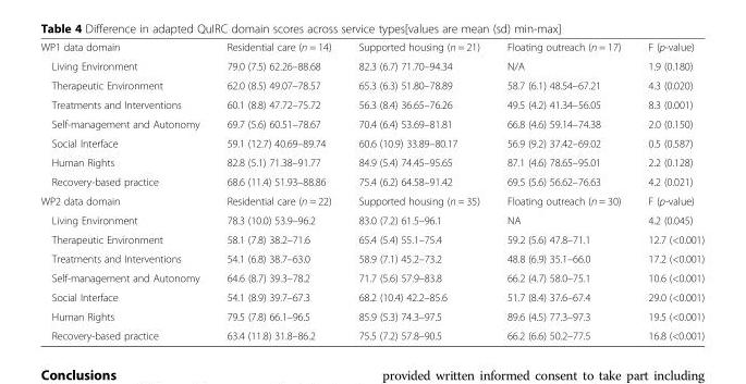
<table><tbody><tr><td>WP1 data domain</td><td>Residential care (n = 14)</td><td>Supported housing (n = 21)</td><td>Floating outreach (n = 17)</td><td>F (p-value)</td></tr><tr><td>Living Environment</td><td>79.0 (7.5) 62.26–88.68</td><td>82.3 (6.7) 71.70–94.34</td><td>N/A</td><td>1.9 (0.180)</td></tr><tr><td>Therapeutic Environment</td><td>62.0 (8.5) 49.07–78.57</td><td>65.3 (6.3) 51.80–78.89</td><td>58.7 (6.1) 48.54–67.21</td><td>4.3 (0.020)</td></tr><tr><td>Treatments and Interventions</td><td>60.1 (8.8) 47.72–75.72</td><td>56.3 (8.4) 36.65–76.26</td><td>49.5 (4.2) 41.34–56.05</td><td>8.3 (0.001)</td></tr><tr><td>Self-management and Autonomy</td><td>69.7 (5.6) 60.51–78.67</td><td>70.4 (6.4) 53.69–81.81</td><td>66.8 (4.6) 59.14–74.38</td><td>2.0 (0.150)</td></tr><tr><td>Social Interface</td><td>59.1 (12.7) 40.69–89.74</td><td>60.6 (10.9) 33.89–80.17</td><td>56.9 (9.2) 37.42–69.02</td><td>0.5 (0.587)</td></tr><tr><td>Human Rights</td><td>82.8 (5.1) 71.38–91.77</td><td>84.9 (5.4) 74.45–95.65</td><td>87.1 (4.6) 78.65–95.01</td><td>2.2 (0.128)</td></tr><tr><td>Recovery-based practice</td><td>68.6 (11.4) 51.93–88.86</td><td>75.4 (6.2) 64.58–91.42</td><td>69.5 (5.6) 56.62–76.63</td><td>4.2 (0.021)</td></tr><tr><td>WP2 data domain</td><td>Residential care (n = 22)</td><td>Supported housing (n = 35)</td><td>Floating outreach (n = 30)</td><td>F (p-value)</td></tr><tr><td>Living Environment</td><td>78.3 (10.0) 53.9–96.2</td><td>83.0 (7.2) 61.5–96.1</td><td>NA</td><td>4.2 (0.045)</td></tr><tr><td>Therapeutic Environment</td><td>58.1 (7.8) 38.2–71.6</td><td>65.4 (5.4) 55.1–75.4</td><td>59.2 (5.6) 47.8–71.1</td><td>12.7 (&lt;0.001)</td></tr><tr><td>Treatments and Interventions</td><td>54.1 (6.8) 38.7–63.0</td><td>58.9 (7.1) 45.2–73.2</td><td>48.8 (6.9) 35.1–66.0</td><td>17.2 (&lt;0.001)</td></tr><tr><td>Self-management and Autonomy</td><td>64.6 (8.7) 39.3–78.2</td><td>71.7 (5.6) 57.9–83.8</td><td>66.2 (4.7) 58.0–75.1</td><td>10.6 (&lt;0.001)</td></tr><tr><td>Social Interface</td><td>54.1 (8.9) 39.7–67.3</td><td>68.2 (10.4) 42.2–85.6</td><td>51.7 (8.4) 37.6–67.4</td><td>29.0 (&lt;0.001)</td></tr><tr><td>Human Rights</td><td>79.5 (7.8) 66.1–96.5</td><td>85.9 (5.3) 74.3–97.5</td><td>89.6 (4.5) 77.3–97.3</td><td>19.5 (&lt;0.001)</td></tr><tr><td>Recovery-based practice</td><td>63.4 (11.8) 31.8–86.2</td><td>75.5 (7.2) 57.8–90.5</td><td>66.2 (6.6) 50.2–77.5</td><td>16.8 (&lt;0.001)</td></tr></tbody></table>